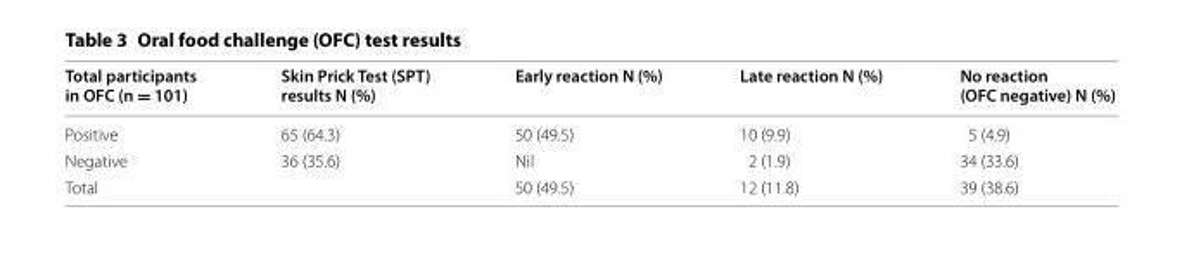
<table><thead><tr><td>Total participants in OFC (n = 101)</td><td>Skin Prick Test (SPT) results N (%)</td><td>Early reaction N (%)</td><td>Late reaction N (%)</td><td>No reaction (OFC negative) N (%)</td></tr></thead><tbody><tr><td>Positive</td><td>65 (64.3)</td><td>50 (49.5)</td><td>10 (9.9)</td><td>5 (4.9)</td></tr><tr><td>Negative</td><td>36 (35.6)</td><td>Nil</td><td>2 (1.9)</td><td>34 (33.6)</td></tr><tr><td>Total</td><td></td><td>50 (49.5)</td><td>12 (11.8)</td><td>39 (38.6)</td></tr></tbody></table>